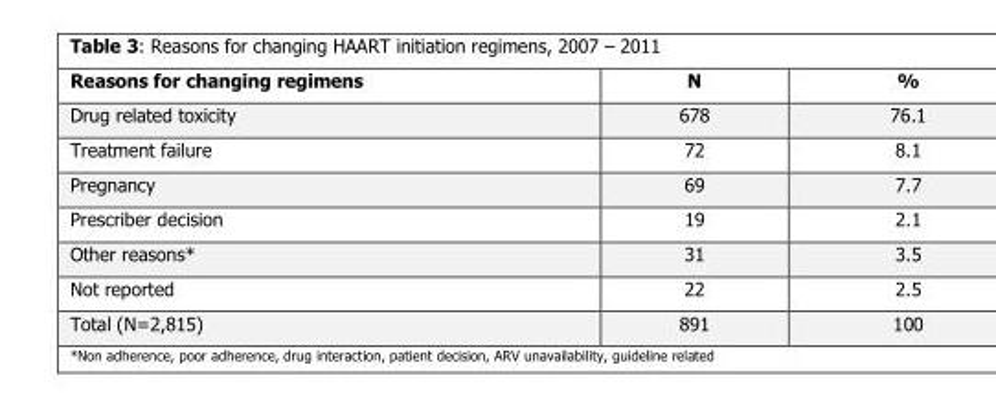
<table><thead><tr><td>Reasons for changing regimens</td><td>N</td><td>%</td></tr></thead><tbody><tr><td>Drug related toxicity</td><td>678</td><td>76.1</td></tr><tr><td>Treatment failure</td><td>72</td><td>8.1</td></tr><tr><td>Pregnancy</td><td>69</td><td>7.7</td></tr><tr><td>Prescriber decision</td><td>19</td><td>2.1</td></tr><tr><td>Other reasons*</td><td>31</td><td>3.5</td></tr><tr><td>Not reported</td><td>22</td><td>2.5</td></tr><tr><td>Total (N=2,815)</td><td>891</td><td>100</td></tr></tbody></table>